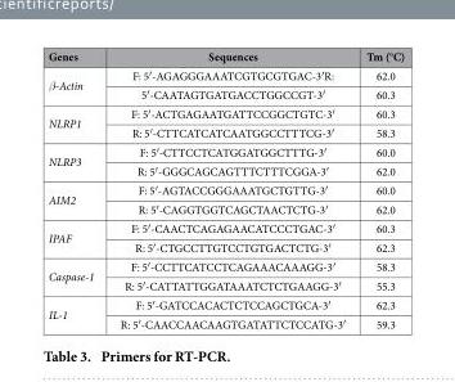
<table><thead><tr><td>Genes</td><td>Sequences</td><td>Tm (°C)</td></tr></thead><tbody><tr><td rowspan="2">β-Actin</td><td>F: 5′ -AGAGGGAAATCGTGCGTGAC-3′ R:</td><td>62.0</td></tr><tr><td>5′ -CAATAGTGATGACCTGGCCGT-3′</td><td>60.3</td></tr><tr><td rowspan="2">NLRP1</td><td>F: 5′ -ACTGAGAATGATTCCGGCTGTC-3′</td><td>60.3</td></tr><tr><td>R: 5′ -CTTCATCATCAATGGCCTTTCG-3′</td><td>58.3</td></tr><tr><td rowspan="2">NLRP3</td><td>F: 5′ -CTTCCTCATGGATGGCTTTG-3′</td><td>60.0</td></tr><tr><td>R: 5′ -GGGCAGCAGTTTCTTTCGGA-3′</td><td>62.0</td></tr><tr><td rowspan="2">AIM2</td><td>F: 5′ -AGTACCGGGAAATGCTGTTG-3′</td><td>60.0</td></tr><tr><td>R: 5′ -CAGGTGGTCAGCTAACTCTG-3′</td><td>62.0</td></tr><tr><td rowspan="2">IPAF</td><td>F: 5′ -CAACTCAGAGAACATCCCTGAC-3′</td><td>60.3</td></tr><tr><td>R: 5′ -CTGCCTTGTCCTGTGACTCTG-3′</td><td>62.3</td></tr><tr><td rowspan="2">Caspase-1</td><td>F: 5′ -CCTTCATCCTCAGAAACAAAGG-3′</td><td>58.3</td></tr><tr><td>R: 5′ -CATTATTGGATAAATCTCTGAAGG-3′</td><td>55.3</td></tr><tr><td rowspan="2">IL-1</td><td>F: 5′ -GATCCACACTCTCCAGCTGCA-3′</td><td>62.3</td></tr><tr><td>R: 5′ -CAACCAACAAGTGATATTCTCCATG-3′</td><td>59.3</td></tr></tbody></table>